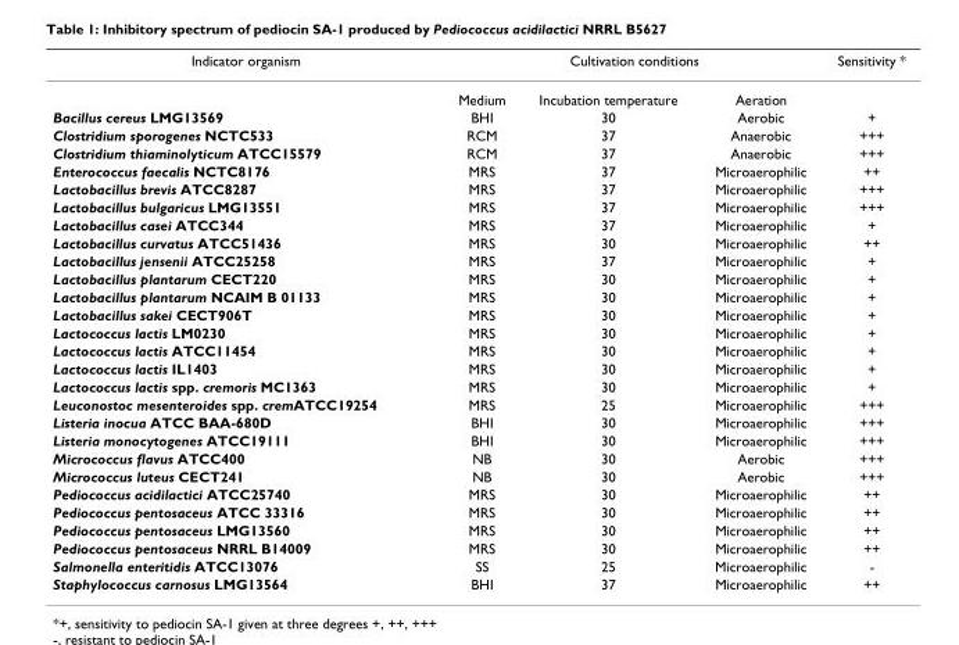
<table><thead><tr><td rowspan="2">Indicator organism</td><td colspan="3">Cultivation conditions</td><td rowspan="2">Sensitivity *</td></tr><tr><td>Medium</td><td>Incubation temperature</td><td>Aeration</td></tr></thead><tbody><tr><td>Bacillus cereus LMG13569</td><td>BHI</td><td>30</td><td>Aerobic</td><td>+</td></tr><tr><td>Clostridium sporogenes NCTC533</td><td>RCM</td><td>37</td><td>Anaerobic</td><td>+++</td></tr><tr><td>Clostridium thiaminolyticum ATCC15579</td><td>RCM</td><td>37</td><td>Anaerobic</td><td>+++</td></tr><tr><td>Enterococcus faecalis NCTC8176</td><td>MRS</td><td>37</td><td>Microaerophilic</td><td>++</td></tr><tr><td>Lactobacillus brevis ATCC8287</td><td>MRS</td><td>37</td><td>Microaerophilic</td><td>+++</td></tr><tr><td>Lactobacillus bulgaricus LMG13551</td><td>MRS</td><td>37</td><td>Microaerophilic</td><td>+++</td></tr><tr><td>Lactobacillus casei ATCC344</td><td>MRS</td><td>37</td><td>Microaerophilic</td><td>+</td></tr><tr><td>Lactobacillus curvatus ATCC51436</td><td>MRS</td><td>30</td><td>Microaerophilic</td><td>++</td></tr><tr><td>Lactobacillus jensenii ATCC25258</td><td>MRS</td><td>37</td><td>Microaerophilic</td><td>+</td></tr><tr><td>Lactobacillus plantarum CECT220</td><td>MRS</td><td>30</td><td>Microaerophilic</td><td>+</td></tr><tr><td>Lactobacillus plantarum NCAIM B 01133</td><td>MRS</td><td>30</td><td>Microaerophilic</td><td>+</td></tr><tr><td>Lactobacillus sakei CECT906T</td><td>MRS</td><td>30</td><td>Microaerophilic</td><td>+</td></tr><tr><td>Lactococcus lactis LM0230</td><td>MRS</td><td>30</td><td>Microaerophilic</td><td>+</td></tr><tr><td>Lactococcus lactis ATCC11454</td><td>MRS</td><td>30</td><td>Microaerophilic</td><td>+</td></tr><tr><td>Lactococcus lactis IL1403</td><td>MRS</td><td>30</td><td>Microaerophilic</td><td>+</td></tr><tr><td>Lactococcus lactis spp. cremoris MC1363</td><td>MRS</td><td>30</td><td>Microaerophilic</td><td>+</td></tr><tr><td>Leuconostoc mesenteroides spp. cremATCC19254</td><td>MRS</td><td>25</td><td>Microaerophilic</td><td>+++</td></tr><tr><td>Listeria inocua ATCC BAA-680D</td><td>BHI</td><td>30</td><td>Microaerophilic</td><td>+++</td></tr><tr><td>Listeria monocytogenes ATCC19111</td><td>BHI</td><td>30</td><td>Microaerophilic</td><td>+++</td></tr><tr><td>Micrococcus flavus ATCC400</td><td>NB</td><td>30</td><td>Aerobic</td><td>+++</td></tr><tr><td>Micrococcus luteus CECT241</td><td>NB</td><td>30</td><td>Aerobic</td><td>+++</td></tr><tr><td>Pediococcus acidilactici ATCC25740</td><td>MRS</td><td>30</td><td>Microaerophilic</td><td>++</td></tr><tr><td>Pediococcus pentosaceus ATCC 33316</td><td>MRS</td><td>30</td><td>Microaerophilic</td><td>++</td></tr><tr><td>Pediococcus pentosaceus LMG13560</td><td>MRS</td><td>30</td><td>Microaerophilic</td><td>++</td></tr><tr><td>Pediococcus pentosaceus NRRL B14009</td><td>MRS</td><td>30</td><td>Microaerophilic</td><td>++</td></tr><tr><td>Salmonella enteritidis ATCC13076</td><td>SS</td><td>25</td><td>Microaerophilic</td><td>-</td></tr><tr><td>Staphylococcus carnosus LMG13564</td><td>BHI</td><td>37</td><td>Microaerophilic</td><td>++</td></tr></tbody></table>